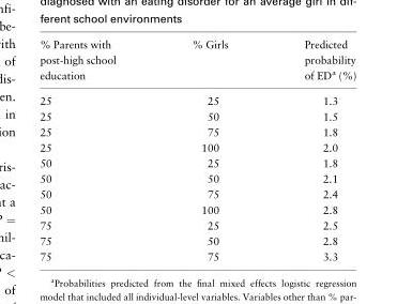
<table><thead><tr><td>% Parents with post-high school education</td><td>% Girls</td><td>Predicted probability of ED<sup>a</sup> (%)</td></tr></thead><tbody><tr><td>25</td><td>25</td><td>1.3</td></tr><tr><td>25</td><td>50</td><td>1.5</td></tr><tr><td>25</td><td>75</td><td>1.8</td></tr><tr><td>25</td><td>100</td><td>2.0</td></tr><tr><td>50</td><td>25</td><td>1.8</td></tr><tr><td>50</td><td>50</td><td>2.1</td></tr><tr><td>50</td><td>75</td><td>2.4</td></tr><tr><td>50</td><td>100</td><td>2.8</td></tr><tr><td>75</td><td>25</td><td>2.5</td></tr><tr><td>75</td><td>50</td><td>2.8</td></tr><tr><td>75</td><td>75</td><td>3.3</td></tr></tbody></table>